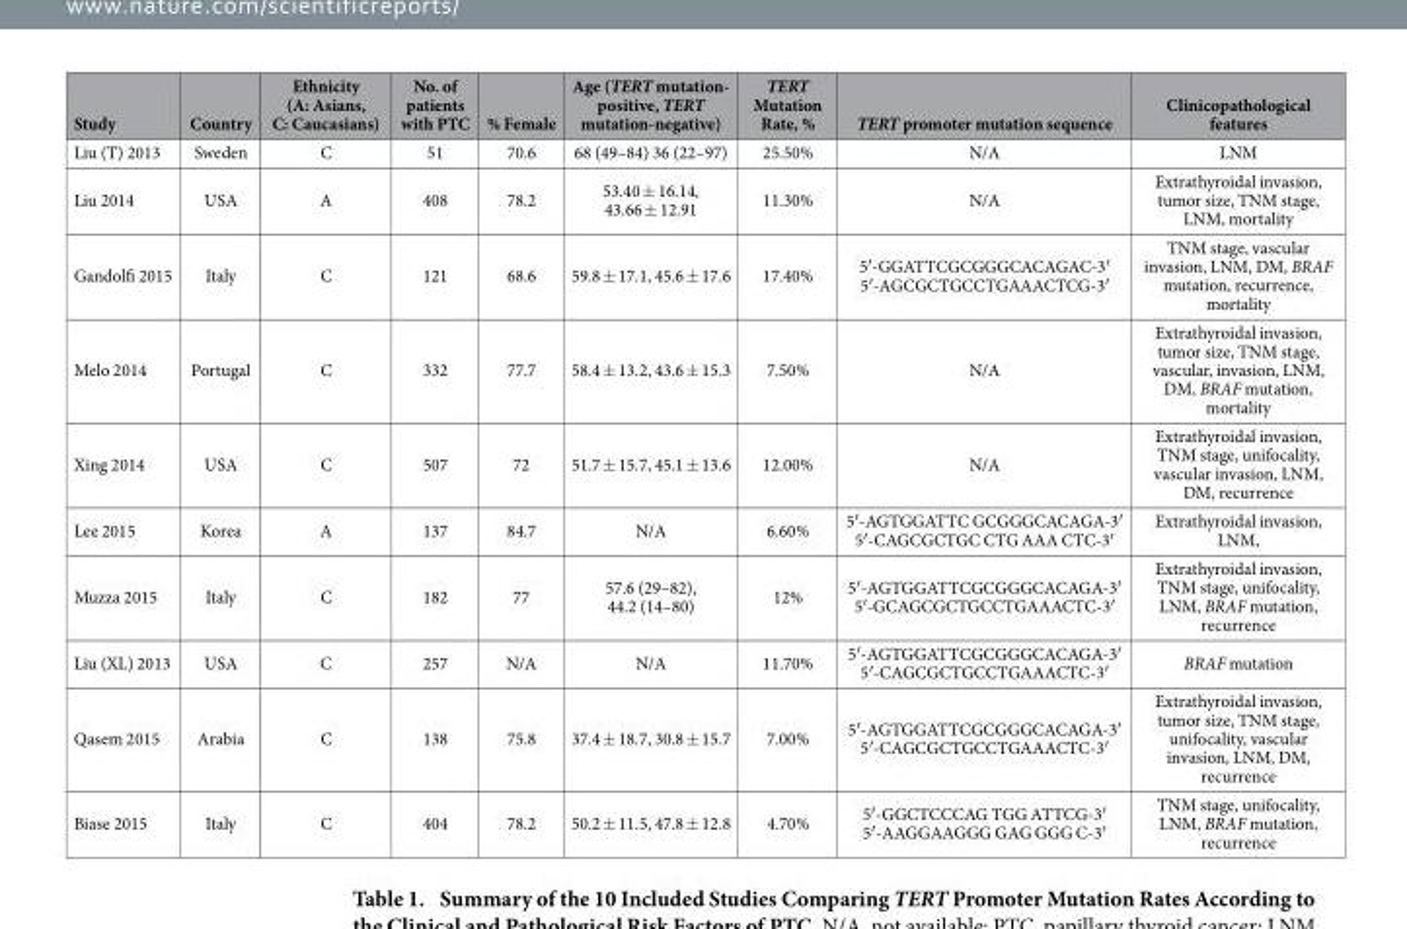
<table><thead><tr><td>Study</td><td>Country</td><td>Ethnicity (A: Asians, C: Caucasians)</td><td>No. of patients with PTC</td><td>% Female</td><td>Age (TERT mutation- positive, TERT mutation-negative)</td><td>TERT Mutation Rate, %</td><td>TERT promoter mutation sequence</td><td>Clinicopathological features</td></tr></thead><tbody><tr><td>Liu (T) 2013</td><td>Sweden</td><td>C</td><td>51</td><td>70.6</td><td>68 (49–84) 36 (22–97)</td><td>25.50%</td><td>N/A</td><td>LNM</td></tr><tr><td>Liu 2014</td><td>USA</td><td>A</td><td>408</td><td>78.2</td><td>53.40 ± 16.14, 43.66 ± 12.91</td><td>11.30%</td><td>N/A</td><td>Extrathyroidal invasion, tumor size, TNM stage, LNM, mortality</td></tr><tr><td>Gandolfi 2015</td><td>Italy</td><td>C</td><td>121</td><td>68.6</td><td>59.8 ± 17.1, 45.6 ± 17.6</td><td>17.40%</td><td>5′ -GGATTCGCGGGCACAGAC-3′ 5′ -AGCGCTGCCTGAAACTCG-3′</td><td>TNM stage, vascular invasion, LNM, DM, BRAF mutation, recurrence, mortality</td></tr><tr><td>Melo 2014</td><td>Portugal</td><td>C</td><td>332</td><td>77.7</td><td>58.4 ± 13.2, 43.6 ± 15.3</td><td>7.50%</td><td>N/A</td><td>Extrathyroidal invasion, tumor size, TNM stage, vascular, invasion, LNM, DM, BRAF mutation, mortality</td></tr><tr><td>Xing 2014</td><td>USA</td><td>C</td><td>507</td><td>72</td><td>51.7 ± 15.7, 45.1 ± 13.6</td><td>12.00%</td><td>N/A</td><td>Extrathyroidal invasion, TNM stage, unifocality, vascular invasion, LNM, DM, recurrence</td></tr><tr><td>Lee 2015</td><td>Korea</td><td>A</td><td>137</td><td>84.7</td><td>N/A</td><td>6.60%</td><td>5′ -AGTGGATTC GCGGGCACAGA-3′ 5′ -CAGCGCTGC CTG AAA CTC-3′</td><td>Extrathyroidal invasion, LNM,</td></tr><tr><td>Muzza 2015</td><td>Italy</td><td>C</td><td>182</td><td>77</td><td>57.6 (29–82), 44.2 (14–80)</td><td>12%</td><td>5′ -AGTGGATTCGCGGGCACAGA-3′ 5′ -GCAGCGCTGCCTGAAACTC-3′</td><td>Extrathyroidal invasion, TNM stage, unifocality, LNM, BRAF mutation, recurrence</td></tr><tr><td>Liu (XL) 2013</td><td>USA</td><td>C</td><td>257</td><td>N/A</td><td>N/A</td><td>11.70%</td><td>5′ -AGTGGATTCGCGGGCACAGA-3′ 5′ -CAGCGCTGCCTGAAACTC-3′</td><td>BRAF mutation</td></tr><tr><td>Qasem 2015</td><td>Arabia</td><td>C</td><td>138</td><td>75.8</td><td>37.4 ± 18.7, 30.8 ± 15.7</td><td>7.00%</td><td>5′ -AGTGGATTCGCGGGCACAGA-3′ 5′ -CAGCGCTGCCTGAAACTC-3′</td><td>Extrathyroidal invasion, tumor size, TNM stage, unifocality, vascular invasion, LNM, DM, recurrence</td></tr><tr><td>Biase 2015</td><td>Italy</td><td>C</td><td>404</td><td>78.2</td><td>50.2 ± 11.5, 47.8 ± 12.8</td><td>4.70%</td><td>5′ -GGCTCCCAG TGG ATTCG-3′ 5′ -AAGGAAGGG GAG GGG C-3′</td><td>TNM stage, unifocality, LNM, BRAF mutation, recurrence</td></tr></tbody></table>